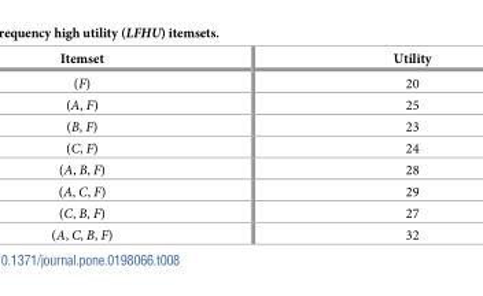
<table><thead><tr><td>Itemset</td><td>Utility</td></tr></thead><tbody><tr><td>(F)</td><td>20</td></tr><tr><td>(A, F)</td><td>25</td></tr><tr><td>(B, F)</td><td>23</td></tr><tr><td>(C, F)</td><td>24</td></tr><tr><td>(A, B, F)</td><td>28</td></tr><tr><td>(A, C, F)</td><td>29</td></tr><tr><td>(C, B, F)</td><td>27</td></tr><tr><td>(A, C, B, F)</td><td>32</td></tr></tbody></table>